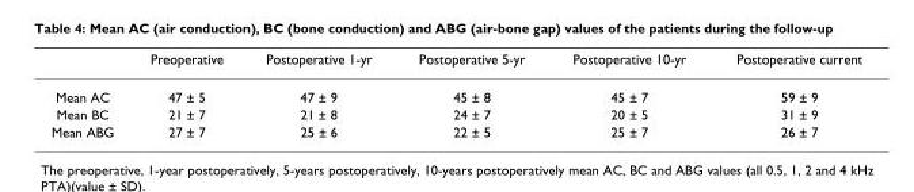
<table><thead><tr><td></td><td>Preoperative</td><td>Postoperative 1-yr</td><td>Postoperative 5-yr</td><td>Postoperative 10-yr</td><td>Postoperative current</td></tr></thead><tbody><tr><td>Mean AC</td><td>47 ± 5</td><td>47 ± 9</td><td>45 ± 8</td><td>45 ± 7</td><td>59 ± 9</td></tr><tr><td>Mean BC</td><td>21 ± 7</td><td>21 ± 8</td><td>24 ± 7</td><td>20 ± 5</td><td>31 ± 9</td></tr><tr><td>Mean ABG</td><td>27 ± 7</td><td>25 ± 6</td><td>22 ± 5</td><td>25 ± 7</td><td>26 ± 7</td></tr></tbody></table>